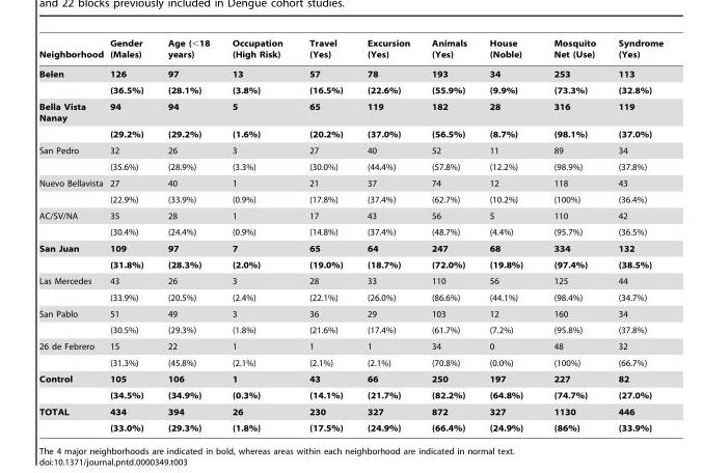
<table><thead><tr><td>Neighborhood</td><td>Gender (Males)</td><td>Age (&lt;18 years)</td><td>Occupation (High Risk)</td><td>Travel (Yes)</td><td>Excursion (Yes)</td><td>Animals (Yes)</td><td>House (Noble)</td><td>Mosquito Net (Use)</td><td>Syndrome (Yes)</td></tr></thead><tbody><tr><td rowspan="2">Belen</td><td>126</td><td>97</td><td>13</td><td>57</td><td>78</td><td>193</td><td>34</td><td>253</td><td>113</td></tr><tr><td>(36.5%)</td><td>(28.1%)</td><td>(3.8%)</td><td>(16.5%)</td><td>(22.6%)</td><td>(55.9%)</td><td>(9.9%)</td><td>(73.3%)</td><td>(32.8%)</td></tr><tr><td rowspan="2">Bella Vista Nanay</td><td>94</td><td>94</td><td>5</td><td>65</td><td>119</td><td>182</td><td>28</td><td>316</td><td>119</td></tr><tr><td>(29.2%)</td><td>(29.2%)</td><td>(1.6%)</td><td>(20.2%)</td><td>(37.0%)</td><td>(56.5%)</td><td>(8.7%)</td><td>(98.1%)</td><td>(37.0%)</td></tr><tr><td rowspan="2">San Pedro</td><td>32</td><td>26</td><td>3</td><td>27</td><td>40</td><td>52</td><td>11</td><td>89</td><td>34</td></tr><tr><td>(35.6%)</td><td>(28.9%)</td><td>(3.3%)</td><td>(30.0%)</td><td>(44.4%)</td><td>(57.8%)</td><td>(12.2%)</td><td>(98.9%)</td><td>(37.8%)</td></tr><tr><td rowspan="2">Nuevo Bellavista</td><td>27</td><td>40</td><td>1</td><td>21</td><td>37</td><td>74</td><td>12</td><td>118</td><td>43</td></tr><tr><td>(22.9%)</td><td>(33.9%)</td><td>(0.9%)</td><td>(17.8%)</td><td>(37.4%)</td><td>(62.7%)</td><td>(10.2%)</td><td>(100%)</td><td>(36.4%)</td></tr><tr><td rowspan="2">AC/SV/NA</td><td>35</td><td>28</td><td>1</td><td>17</td><td>43</td><td>56</td><td>5</td><td>110</td><td>42</td></tr><tr><td>(30.4%)</td><td>(24.4%)</td><td>(0.9%)</td><td>(14.8%)</td><td>(37.4%)</td><td>(48.7%)</td><td>(4.4%)</td><td>(95.7%)</td><td>(36.5%)</td></tr><tr><td rowspan="2">San Juan</td><td>109</td><td>97</td><td>7</td><td>65</td><td>64</td><td>247</td><td>68</td><td>334</td><td>132</td></tr><tr><td>(31.8%)</td><td>(28.3%)</td><td>(2.0%)</td><td>(19.0%)</td><td>(18.7%)</td><td>(72.0%)</td><td>(19.8%)</td><td>(97.4%)</td><td>(38.5%)</td></tr><tr><td rowspan="2">Las Mercedes</td><td>43</td><td>26</td><td>3</td><td>28</td><td>33</td><td>110</td><td>56</td><td>125</td><td>44</td></tr><tr><td>(33.9%)</td><td>(20.5%)</td><td>(2.4%)</td><td>(22.1%)</td><td>(26.0%)</td><td>(86.6%)</td><td>(44.1%)</td><td>(98.4%)</td><td>(34.7%)</td></tr><tr><td rowspan="2">San Pablo</td><td>51</td><td>49</td><td>3</td><td>36</td><td>29</td><td>103</td><td>12</td><td>160</td><td>34</td></tr><tr><td>(30.5%)</td><td>(29.3%)</td><td>(1.8%)</td><td>(21.6%)</td><td>(17.4%)</td><td>(61.7%)</td><td>(7.2%)</td><td>(95.8%)</td><td>(37.8%)</td></tr><tr><td rowspan="2">26 de Febrero</td><td>15</td><td>22</td><td>1</td><td>1</td><td>1</td><td>34</td><td>0</td><td>48</td><td>32</td></tr><tr><td>(31.3%)</td><td>(45.8%)</td><td>(2.1%)</td><td>(2.1%)</td><td>(2.1%)</td><td>(70.8%)</td><td>(0.0%)</td><td>(100%)</td><td>(66.7%)</td></tr><tr><td rowspan="2">Control</td><td>105</td><td>106</td><td>1</td><td>43</td><td>66</td><td>250</td><td>197</td><td>227</td><td>82</td></tr><tr><td>(34.5%)</td><td>(34.9%)</td><td>(0.3%)</td><td>(14.1%)</td><td>(21.7%)</td><td>(82.2%)</td><td>(64.8%)</td><td>(74.7%)</td><td>(27.0%)</td></tr><tr><td rowspan="2">TOTAL</td><td>434</td><td>394</td><td>26</td><td>230</td><td>327</td><td>872</td><td>327</td><td>1130</td><td>446</td></tr><tr><td>(33.0%)</td><td>(29.3%)</td><td>(1.8%)</td><td>(17.5%)</td><td>(24.9%)</td><td>(66.4%)</td><td>(24.9%)</td><td>(86%)</td><td>(33.9%)</td></tr></tbody></table>